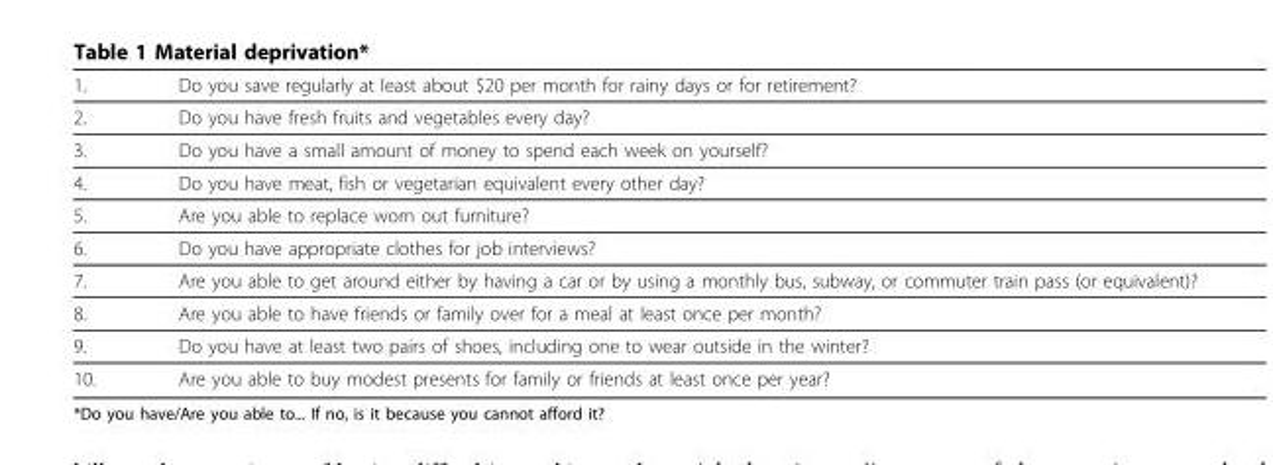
<table><thead><tr><td>1.</td><td>Do you save regularly at least about $20 per month for rainy days or for retirement?</td></tr></thead><tbody><tr><td>2.</td><td>Do you have fresh fruits and vegetables every day?</td></tr><tr><td>3.</td><td>Do you have a small amount of money to spend each week on yourself?</td></tr><tr><td>4.</td><td>Do you have meat, fish or vegetarian equivalent every other day?</td></tr><tr><td>5.</td><td>Are you able to replace worn out furniture?</td></tr><tr><td>6.</td><td>Do you have appropriate clothes for job interviews?</td></tr><tr><td>7.</td><td>Are you able to get around either by having a car or by using a monthly bus, subway, or commuter train pass (or equivalent)?</td></tr><tr><td>8.</td><td>Are you able to have friends or family over for a meal at least once per month?</td></tr><tr><td>9.</td><td>Do you have at least two pairs of shoes, including one to wear outside in the winter?</td></tr><tr><td>10.</td><td>Are you able to buy modest presents for family or friends at least once per year?</td></tr></tbody></table>